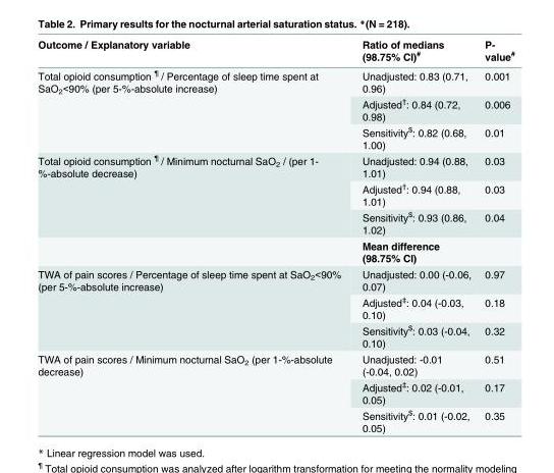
<table><thead><tr><td>Outcome / Explanatory variable</td><td>Ratio of medians (98.75% CI)<sup>#</sup></td><td>P- value<sup>#</sup></td></tr></thead><tbody><tr><td rowspan="3">Total opioid consumption <sup>¶</sup> / Percentage of sleep time spent at SaO<sub>2</sub>&lt;90% (per 5-%-absolute increase)</td><td>Unadjusted: 0.83 (0.71, 0.96)</td><td>0.001</td></tr><tr><td>Adjusted<sup>†</sup>: 0.84 (0.72, 0.98)</td><td>0.006</td></tr><tr><td>Sensitivity<sup>$</sup>: 0.82 (0.68, 1.00)</td><td>0.01</td></tr><tr><td rowspan="4">Total opioid consumption <sup>¶</sup> / Minimum nocturnal SaO<sub>2</sub> / (per 1- %-absolute decrease)</td><td>Unadjusted: 0.94 (0.88, 1.01)</td><td>0.03</td></tr><tr><td>Adjusted<sup>†</sup>: 0.94 (0.88, 1.01)</td><td>0.03</td></tr><tr><td>Sensitivity<sup>$</sup>: 0.93 (0.86, 1.02)</td><td>0.04</td></tr><tr><td>Mean difference (98.75% CI)</td><td></td></tr><tr><td rowspan="3">TWA of pain scores / Percentage of sleep time spent at SaO<sub>2</sub>&lt;90% (per 5-%-absolute increase)</td><td>Unadjusted: 0.00 (-0.06, 0.07)</td><td>0.97</td></tr><tr><td>Adjusted<sup>‡</sup>: 0.04 (-0.03, 0.10)</td><td>0.18</td></tr><tr><td>Sensitivity<sup>$</sup>: 0.03 (-0.04, 0.10)</td><td>0.32</td></tr><tr><td rowspan="3">TWA of pain scores / Minimum nocturnal SaO<sub>2</sub> (per 1-%-absolute decrease)</td><td>Unadjusted: -0.01 (-0.04, 0.02)</td><td>0.51</td></tr><tr><td>Adjusted<sup>‡</sup>: 0.02 (-0.01, 0.05)</td><td>0.17</td></tr><tr><td>Sensitivity<sup>$</sup>: 0.01 (-0.02, 0.05)</td><td>0.35</td></tr></tbody></table>